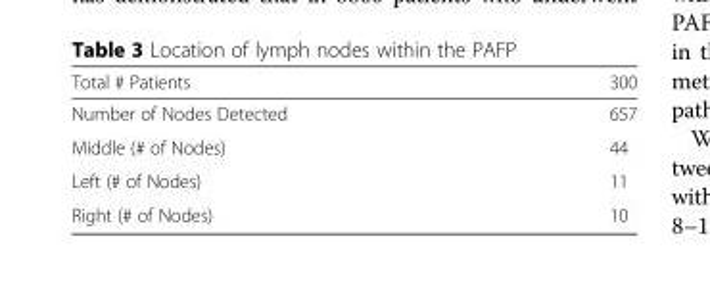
<table><thead><tr><td>Total # Patients</td><td>300</td></tr></thead><tbody><tr><td>Number of Nodes Detected</td><td>657</td></tr><tr><td>Middle (# of Nodes)</td><td>44</td></tr><tr><td>Left (# of Nodes)</td><td>11</td></tr><tr><td>Right (# of Nodes)</td><td>10</td></tr></tbody></table>